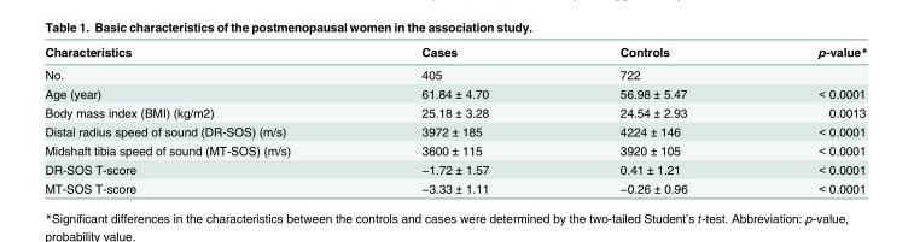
<table><thead><tr><td>Characteristics</td><td>Cases</td><td>Controls</td><td>p-value*</td></tr></thead><tbody><tr><td>No.</td><td>405</td><td>722</td><td></td></tr><tr><td>Age (year)</td><td>61.84 ± 4.70</td><td>56.98 ± 5.47</td><td>&lt; 0.0001</td></tr><tr><td>Body mass index (BMI) (kg/m2)</td><td>25.18 ± 3.28</td><td>24.54 ± 2.93</td><td>0.0013</td></tr><tr><td>Distal radius speed of sound (DR-SOS) (m/s)</td><td>3972 ± 185</td><td>4224 ± 146</td><td>&lt; 0.0001</td></tr><tr><td>Midshaft tibia speed of sound (MT-SOS) (m/s)</td><td>3600 ± 115</td><td>3920 ± 105</td><td>&lt; 0.0001</td></tr><tr><td>DR-SOS T-score</td><td>−1.72 ± 1.57</td><td>0.41 ± 1.21</td><td>&lt; 0.0001</td></tr><tr><td>MT-SOS T-score</td><td>−3.33 ± 1.11</td><td>−0.26 ± 0.96</td><td>&lt; 0.0001</td></tr></tbody></table>